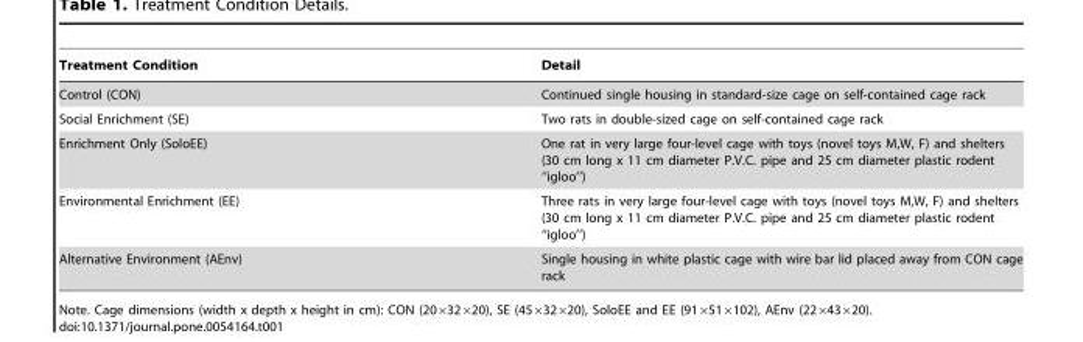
<table><thead><tr><td>Treatment Condition</td><td>Detail</td></tr></thead><tbody><tr><td>Control (CON)</td><td>Continued single housing in standard-size cage on self-contained cage rack</td></tr><tr><td>Social Enrichment (SE)</td><td>Two rats in double-sized cage on self-contained cage rack</td></tr><tr><td>Enrichment Only (SoloEE)</td><td>One rat in very large four-level cage with toys (novel toys M,W, F) and shelters (30 cm long x 11 cm diameter P.V.C. pipe and 25 cm diameter plastic rodent ‘‘igloo’’)</td></tr><tr><td>Environmental Enrichment (EE)</td><td>Three rats in very large four-level cage with toys (novel toys M,W, F) and shelters (30 cm long x 11 cm diameter P.V.C. pipe and 25 cm diameter plastic rodent ‘‘igloo’’)</td></tr><tr><td>Alternative Environment (AEnv)</td><td>Single housing in white plastic cage with wire bar lid placed away from CON cage rack</td></tr></tbody></table>